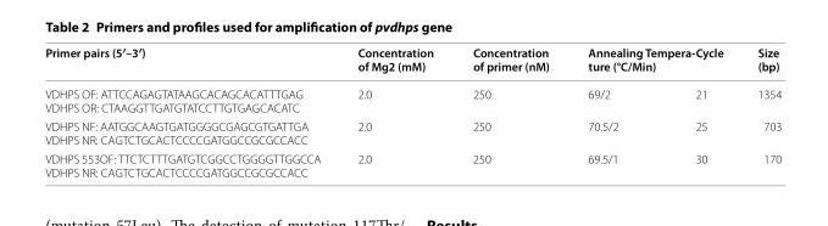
<table><thead><tr><td>Primer pairs (5′–3′)</td><td>Concentration of Mg2 (mM)</td><td>Concentration of primer (nM)</td><td>Annealing Tempera- ture (°C/Min)</td><td>Cycle</td><td>Size (bp)</td></tr></thead><tbody><tr><td>VDHPS OF: ATTCCAGAGTATAAGCACAGCACATTTGAG VDHPS OR: CTAAGGTTGATGTATCCTTGTGAGCACATC</td><td>2.0</td><td>250</td><td>69/2</td><td>21</td><td>1354</td></tr><tr><td>VDHPS NF: AATGGCAAGTGATGGGGCGAGCGTGATTGA VDHPS NR: CAGTCTGCACTCCCCGATGGCCGCGCCACC</td><td>2.0</td><td>250</td><td>70.5/2</td><td>25</td><td>703</td></tr><tr><td>VDHPS 553OF: TTCTCTTTGATGTCGGCCTGGGGTTGGCCA VDHPS NR: CAGTCTGCACTCCCCGATGGCCGCGCCACC</td><td>2.0</td><td>250</td><td>69.5/1</td><td>30</td><td>170</td></tr></tbody></table>